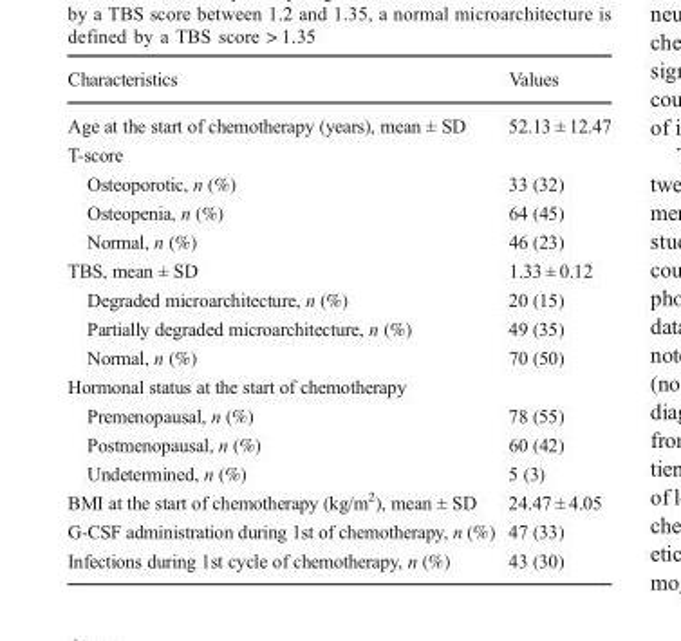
<table><thead><tr><td>Characteristics</td><td>Values</td></tr></thead><tbody><tr><td>Age at the start of chemotherapy (years), mean ± SD</td><td>52.13 ± 12.47</td></tr><tr><td colspan="2">T-score</td></tr><tr><td>Osteoporotic, n (%)</td><td>33 (32)</td></tr><tr><td>Osteopenia, n (%)</td><td>64 (45)</td></tr><tr><td>Normal, n (%)</td><td>46 (23)</td></tr><tr><td>TBS, mean ± SD</td><td>1.33 ± 0.12</td></tr><tr><td>Degraded microarchitecture, n (%)</td><td>20 (15)</td></tr><tr><td>Partially degraded microarchitecture, n (%)</td><td>49 (35)</td></tr><tr><td>Normal, n (%)</td><td>70 (50)</td></tr><tr><td colspan="2">Hormonal status at the start of chemotherapy</td></tr><tr><td>Premenopausal, n (%)</td><td>78 (55)</td></tr><tr><td>Postmenopausal, n (%)</td><td>60 (42)</td></tr><tr><td>Undetermined, n (%)</td><td>5 (3)</td></tr><tr><td>BMI at the start of chemotherapy (kg/m<sup>2</sup>), mean ± SD</td><td>24.47 ± 4.05</td></tr><tr><td>G-CSF administration during 1st of chemotherapy, n (%)</td><td>47 (33)</td></tr><tr><td>Infections during 1st cycle of chemotherapy, n (%)</td><td>43 (30)</td></tr></tbody></table>